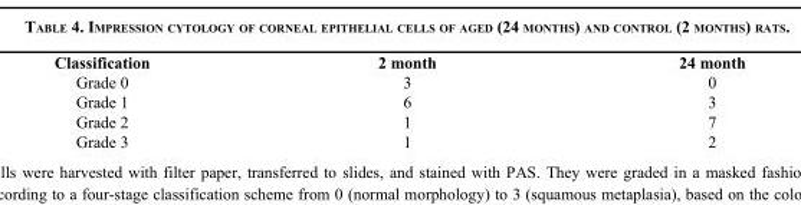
<table><thead><tr><td>Classification</td><td>2 month</td><td>24 month</td></tr></thead><tbody><tr><td>Grade 0</td><td>3</td><td>0</td></tr><tr><td>Grade 1</td><td>6</td><td>3</td></tr><tr><td>Grade 2</td><td>1</td><td>7</td></tr><tr><td>Grade 3</td><td>1</td><td>2</td></tr></tbody></table>